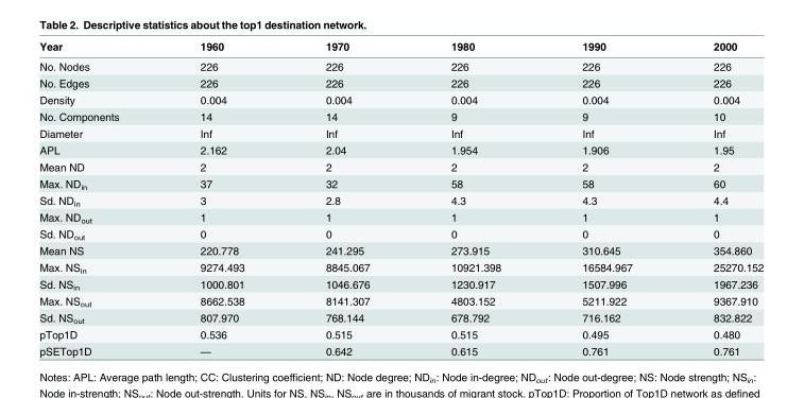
<table><thead><tr><td>Year</td><td>1960</td><td>1970</td><td>1980</td><td>1990</td><td>2000</td></tr></thead><tbody><tr><td>No. Nodes</td><td>226</td><td>226</td><td>226</td><td>226</td><td>226</td></tr><tr><td>No. Edges</td><td>226</td><td>226</td><td>226</td><td>226</td><td>226</td></tr><tr><td>Density</td><td>0.004</td><td>0.004</td><td>0.004</td><td>0.004</td><td>0.004</td></tr><tr><td>No. Components</td><td>14</td><td>14</td><td>9</td><td>9</td><td>10</td></tr><tr><td>Diameter</td><td>Inf</td><td>Inf</td><td>Inf</td><td>Inf</td><td>Inf</td></tr><tr><td>APL</td><td>2.162</td><td>2.04</td><td>1.954</td><td>1.906</td><td>1.95</td></tr><tr><td>Mean ND</td><td>2</td><td>2</td><td>2</td><td>2</td><td>2</td></tr><tr><td>Max. ND<sub>in</sub></td><td>37</td><td>32</td><td>58</td><td>58</td><td>60</td></tr><tr><td>Sd. ND<sub>in</sub></td><td>3</td><td>2.8</td><td>4.3</td><td>4.3</td><td>4.4</td></tr><tr><td>Max. ND<sub>out</sub></td><td>1</td><td>1</td><td>1</td><td>1</td><td>1</td></tr><tr><td>Sd. ND<sub>out</sub></td><td>0</td><td>0</td><td>0</td><td>0</td><td>0</td></tr><tr><td>Mean NS</td><td>220.778</td><td>241.295</td><td>273.915</td><td>310.645</td><td>354.860</td></tr><tr><td>Max. NS<sub>in</sub></td><td>9274.493</td><td>8845.067</td><td>10921.398</td><td>16584.967</td><td>25270.152</td></tr><tr><td>Sd. NS<sub>in</sub></td><td>1000.801</td><td>1046.676</td><td>1230.917</td><td>1507.996</td><td>1967.236</td></tr><tr><td>Max. NS<sub>out</sub></td><td>8662.538</td><td>8141.307</td><td>4803.152</td><td>5211.922</td><td>9367.910</td></tr><tr><td>Sd. NS<sub>out</sub></td><td>807.970</td><td>768.144</td><td>678.792</td><td>716.162</td><td>832.822</td></tr><tr><td>pTop1D</td><td>0.536</td><td>0.515</td><td>0.515</td><td>0.495</td><td>0.480</td></tr><tr><td>pSETop1D</td><td>—</td><td>0.642</td><td>0.615</td><td>0.761</td><td>0.761</td></tr></tbody></table>